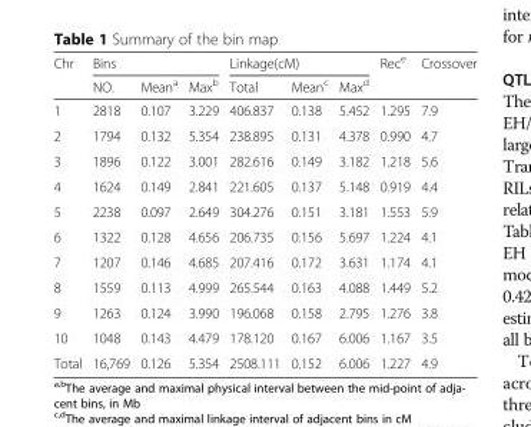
<table><thead><tr><td rowspan="2">Chr</td><td colspan="3">Bins</td><td colspan="3">Linkage(cM)</td><td rowspan="2">Rec<sup>e</sup></td><td rowspan="2">Crossover</td></tr><tr><td>NO.</td><td>Mean<sup>a</sup></td><td>Max<sup>b</sup></td><td>Total</td><td>Mean<sup>c</sup></td><td>Max<sup>d</sup></td></tr></thead><tbody><tr><td>1</td><td>2818</td><td>0.107</td><td>3.229</td><td>406.837</td><td>0.138</td><td>5.452</td><td>1.295</td><td>7.9</td></tr><tr><td>2</td><td>1794</td><td>0.132</td><td>5.354</td><td>238.895</td><td>0.131</td><td>4.378</td><td>0.990</td><td>4.7</td></tr><tr><td>3</td><td>1896</td><td>0.122</td><td>3.001</td><td>282.616</td><td>0.149</td><td>3.182</td><td>1.218</td><td>5.6</td></tr><tr><td>4</td><td>1624</td><td>0.149</td><td>2.841</td><td>221.605</td><td>0.137</td><td>5.148</td><td>0.919</td><td>4.4</td></tr><tr><td>5</td><td>2238</td><td>0.097</td><td>2.649</td><td>304.276</td><td>0.151</td><td>3.181</td><td>1.553</td><td>5.9</td></tr><tr><td>6</td><td>1322</td><td>0.128</td><td>4.656</td><td>206.735</td><td>0.156</td><td>5.697</td><td>1.224</td><td>4.1</td></tr><tr><td>7</td><td>1207</td><td>0.146</td><td>4.685</td><td>207.416</td><td>0.172</td><td>3.631</td><td>1.174</td><td>4.1</td></tr><tr><td>8</td><td>1559</td><td>0.113</td><td>4.999</td><td>265.544</td><td>0.163</td><td>4.088</td><td>1.449</td><td>5.2</td></tr><tr><td>9</td><td>1263</td><td>0.124</td><td>3.990</td><td>196.068</td><td>0.158</td><td>2.795</td><td>1.276</td><td>3.8</td></tr><tr><td>10</td><td>1048</td><td>0.143</td><td>4.479</td><td>178.120</td><td>0.167</td><td>6.006</td><td>1.167</td><td>3.5</td></tr><tr><td>Total</td><td>16,769</td><td>0.126</td><td>5.354</td><td>2508.111</td><td>0.152</td><td>6.006</td><td>1.227</td><td>4.9</td></tr></tbody></table>